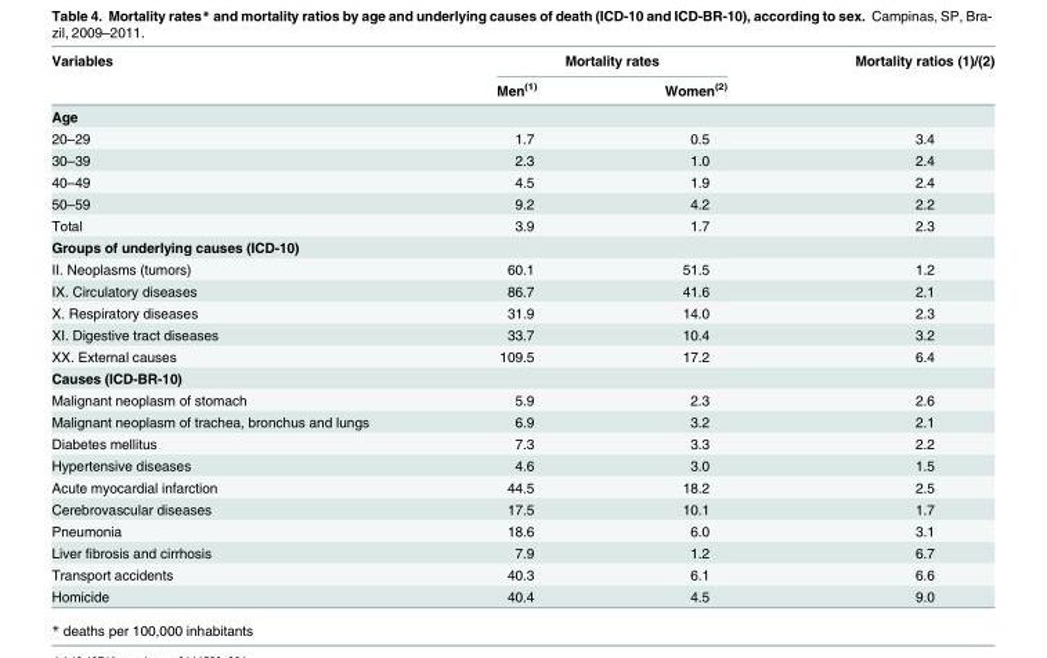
<table><thead><tr><td rowspan="2">Variables</td><td colspan="2">Mortality rates</td><td rowspan="2">Mortality ratios (1)/(2)</td></tr><tr><td>Men<sup>(1)</sup></td><td>Women<sup>(2)</sup></td></tr></thead><tbody><tr><td colspan="4">Age</td></tr><tr><td>20–29</td><td>1.7</td><td>0.5</td><td>3.4</td></tr><tr><td>30–39</td><td>2.3</td><td>1.0</td><td>2.4</td></tr><tr><td>40–49</td><td>4.5</td><td>1.9</td><td>2.4</td></tr><tr><td>50–59</td><td>9.2</td><td>4.2</td><td>2.2</td></tr><tr><td>Total</td><td>3.9</td><td>1.7</td><td>2.3</td></tr><tr><td colspan="4">Groups of underlying causes (ICD-10)</td></tr><tr><td>II. Neoplasms (tumors)</td><td>60.1</td><td>51.5</td><td>1.2</td></tr><tr><td>IX. Circulatory diseases</td><td>86.7</td><td>41.6</td><td>2.1</td></tr><tr><td>X. Respiratory diseases</td><td>31.9</td><td>14.0</td><td>2.3</td></tr><tr><td>XI. Digestive tract diseases</td><td>33.7</td><td>10.4</td><td>3.2</td></tr><tr><td>XX. External causes</td><td>109.5</td><td>17.2</td><td>6.4</td></tr><tr><td colspan="4">Causes (ICD-BR-10)</td></tr><tr><td>Malignant neoplasm of stomach</td><td>5.9</td><td>2.3</td><td>2.6</td></tr><tr><td>Malignant neoplasm of trachea, bronchus and lungs</td><td>6.9</td><td>3.2</td><td>2.1</td></tr><tr><td>Diabetes mellitus</td><td>7.3</td><td>3.3</td><td>2.2</td></tr><tr><td>Hypertensive diseases</td><td>4.6</td><td>3.0</td><td>1.5</td></tr><tr><td>Acute myocardial infarction</td><td>44.5</td><td>18.2</td><td>2.5</td></tr><tr><td>Cerebrovascular diseases</td><td>17.5</td><td>10.1</td><td>1.7</td></tr><tr><td>Pneumonia</td><td>18.6</td><td>6.0</td><td>3.1</td></tr><tr><td>Liver fibrosis and cirrhosis</td><td>7.9</td><td>1.2</td><td>6.7</td></tr><tr><td>Transport accidents</td><td>40.3</td><td>6.1</td><td>6.6</td></tr><tr><td>Homicide</td><td>40.4</td><td>4.5</td><td>9.0</td></tr></tbody></table>